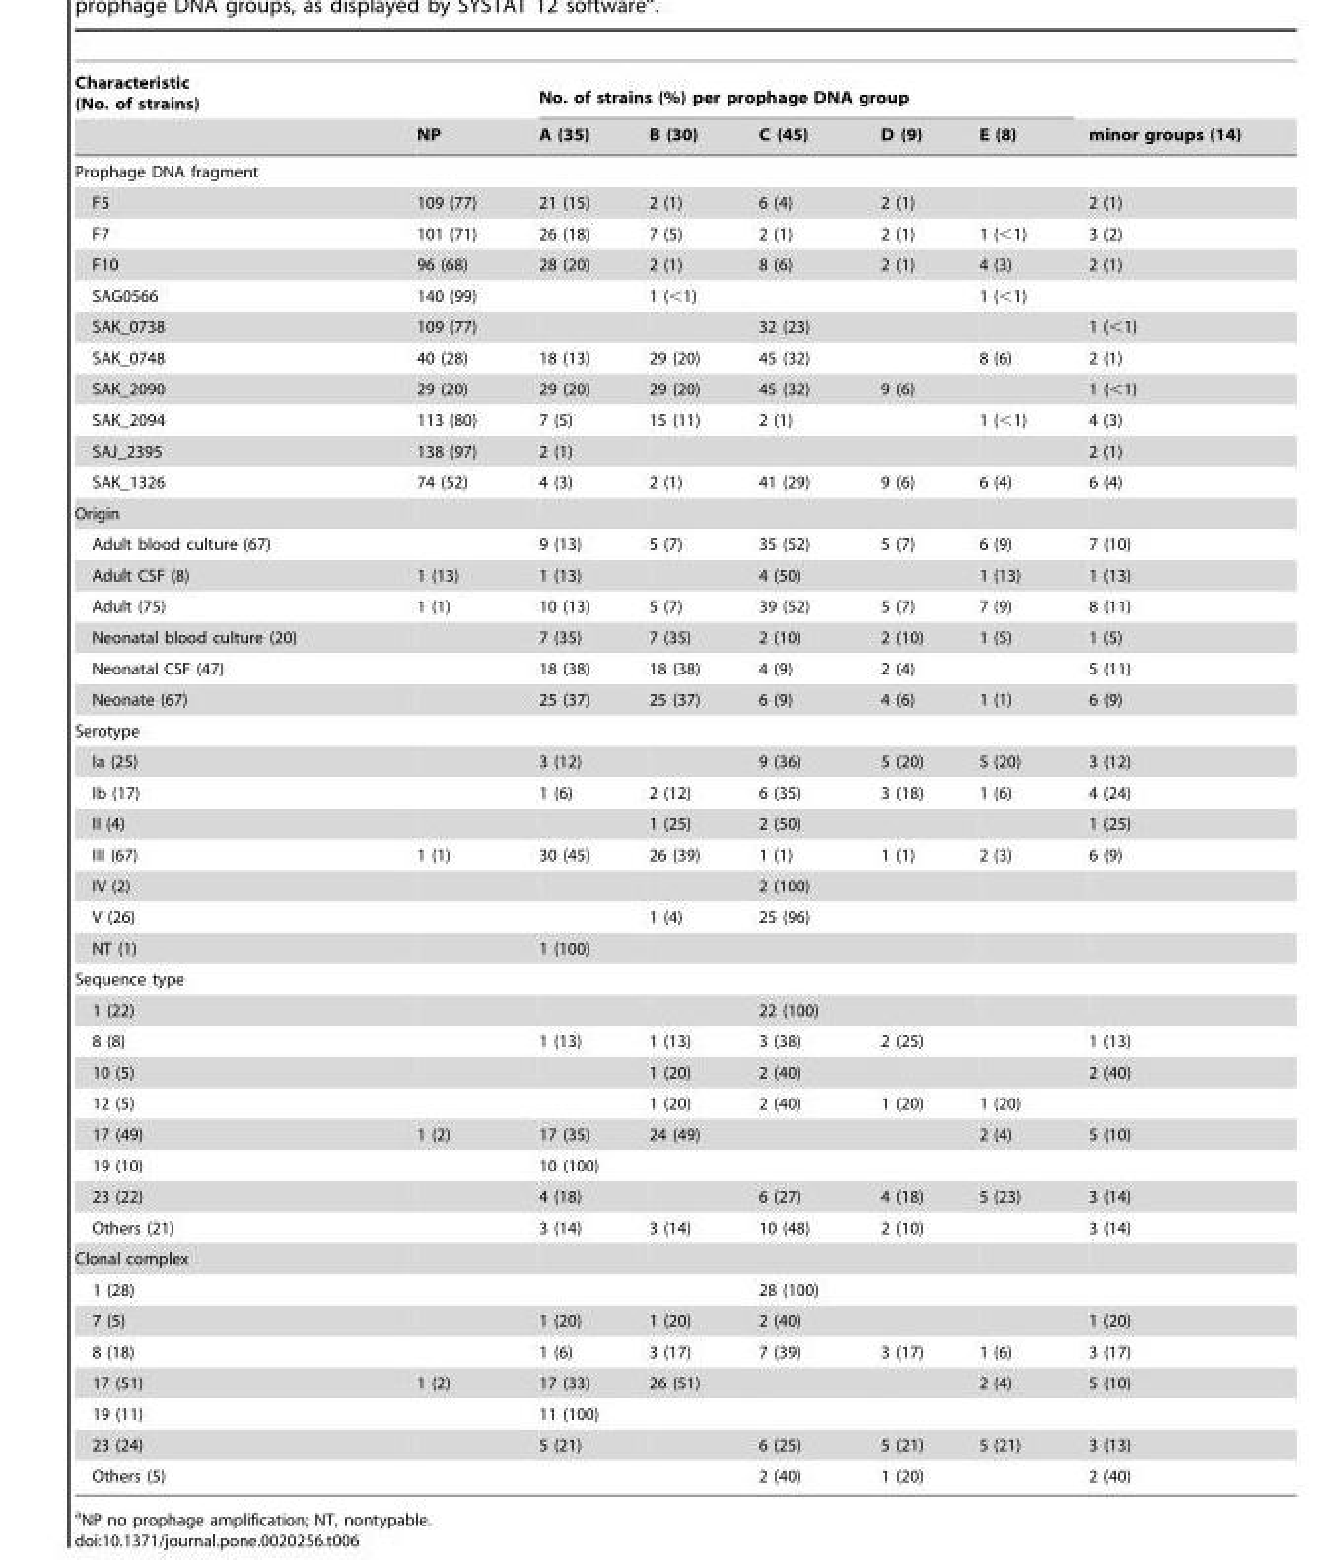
<table><thead><tr><td rowspan="2">Characteristic (No. of strains)</td><td rowspan="2">NP</td><td colspan="5">No. of strains (%) per prophage DNA group</td><td rowspan="2">minor groups (14)</td></tr><tr><td>A (35)</td><td>B (30)</td><td>C (45)</td><td>D (9)</td><td>E (8)</td></tr></thead><tbody><tr><td colspan="8">Prophage DNA fragment</td></tr><tr><td>F5</td><td>109 (77)</td><td>21 (15)</td><td>2 (1)</td><td>6 (4)</td><td>2 (1)</td><td></td><td>2 (1)</td></tr><tr><td>F7</td><td>101 (71)</td><td>26 (18)</td><td>7 (5)</td><td>2 (1)</td><td>2 (1)</td><td>1 (&lt;1)</td><td>3 (2)</td></tr><tr><td>F10</td><td>96 (68)</td><td>28 (20)</td><td>2 (1)</td><td>8 (6)</td><td>2 (1)</td><td>4 (3)</td><td>2 (1)</td></tr><tr><td>SAG0566</td><td>140 (99)</td><td></td><td>1 (&lt;1)</td><td></td><td></td><td>1 (&lt;1)</td><td></td></tr><tr><td>SAK_0738</td><td>109 (77)</td><td></td><td></td><td>32 (23)</td><td></td><td></td><td>1 (&lt;1)</td></tr><tr><td>SAK_0748</td><td>40 (28)</td><td>18 (13)</td><td>29 (20)</td><td>45 (32)</td><td></td><td>8 (6)</td><td>2 (1)</td></tr><tr><td>SAK_2090</td><td>29 (20)</td><td>29 (20)</td><td>29 (20)</td><td>45 (32)</td><td>9 (6)</td><td></td><td>1 (&lt;1)</td></tr><tr><td>SAK_2094</td><td>113 (80)</td><td>7 (5)</td><td>15 (11)</td><td>2 (1)</td><td></td><td>1 (&lt;1)</td><td>4 (3)</td></tr><tr><td>SAJ_2395</td><td>138 (97)</td><td>2 (1)</td><td></td><td></td><td></td><td></td><td>2 (1)</td></tr><tr><td>SAK_1326</td><td>74 (52)</td><td>4 (3)</td><td>2 (1)</td><td>41 (29)</td><td>9 (6)</td><td>6 (4)</td><td>6 (4)</td></tr><tr><td colspan="8">Origin</td></tr><tr><td>Adult blood culture (67)</td><td></td><td>9 (13)</td><td>5 (7)</td><td>35 (52)</td><td>5 (7)</td><td>6 (9)</td><td>7 (10)</td></tr><tr><td>Adult CSF (8)</td><td>1 (13)</td><td>1 (13)</td><td></td><td>4 (50)</td><td></td><td>1 (13)</td><td>1 (13)</td></tr><tr><td>Adult (75)</td><td>1 (1)</td><td>10 (13)</td><td>5 (7)</td><td>39 (52)</td><td>5 (7)</td><td>7 (9)</td><td>8 (11)</td></tr><tr><td>Neonatal blood culture (20)</td><td></td><td>7 (35)</td><td>7 (35)</td><td>2 (10)</td><td>2 (10)</td><td>1 (5)</td><td>1 (5)</td></tr><tr><td>Neonatal CSF (47)</td><td></td><td>18 (38)</td><td>18 (38)</td><td>4 (9)</td><td>2 (4)</td><td></td><td>5 (11)</td></tr><tr><td>Neonate (67)</td><td></td><td>25 (37)</td><td>25 (37)</td><td>6 (9)</td><td>4 (6)</td><td>1 (1)</td><td>6 (9)</td></tr><tr><td colspan="8">Serotype</td></tr><tr><td>Ia (25)</td><td></td><td>3 (12)</td><td></td><td>9 (36)</td><td>5 (20)</td><td>5 (20)</td><td>3 (12)</td></tr><tr><td>Ib (17)</td><td></td><td>1 (6)</td><td>2 (12)</td><td>6 (35)</td><td>3 (18)</td><td>1 (6)</td><td>4 (24)</td></tr><tr><td>II (4)</td><td></td><td></td><td>1 (25)</td><td>2 (50)</td><td></td><td></td><td>1 (25)</td></tr><tr><td>III (67)</td><td>1 (1)</td><td>30 (45)</td><td>26 (39)</td><td>1 (1)</td><td>1 (1)</td><td>2 (3)</td><td>6 (9)</td></tr><tr><td>IV (2)</td><td></td><td></td><td></td><td>2 (100)</td><td></td><td></td><td></td></tr><tr><td>V (26)</td><td></td><td></td><td>1 (4)</td><td>25 (96)</td><td></td><td></td><td></td></tr><tr><td>NT (1)</td><td></td><td>1 (100)</td><td></td><td></td><td></td><td></td><td></td></tr><tr><td colspan="8">Sequence type</td></tr><tr><td>1 (22)</td><td></td><td></td><td></td><td>22 (100)</td><td></td><td></td><td></td></tr><tr><td>8 (8)</td><td></td><td>1 (13)</td><td>1 (13)</td><td>3 (38)</td><td>2 (25)</td><td></td><td>1 (13)</td></tr><tr><td>10 (5)</td><td></td><td></td><td>1 (20)</td><td>2 (40)</td><td></td><td></td><td>2 (40)</td></tr><tr><td>12 (5)</td><td></td><td></td><td>1 (20)</td><td>2 (40)</td><td>1 (20)</td><td>1 (20)</td><td></td></tr><tr><td>17 (49)</td><td>1 (2)</td><td>17 (35)</td><td>24 (49)</td><td></td><td></td><td>2 (4)</td><td>5 (10)</td></tr><tr><td>19 (10)</td><td></td><td>10 (100)</td><td></td><td></td><td></td><td></td><td></td></tr><tr><td>23 (22)</td><td></td><td>4 (18)</td><td></td><td>6 (27)</td><td>4 (18)</td><td>5 (23)</td><td>3 (14)</td></tr><tr><td>Others (21)</td><td></td><td>3 (14)</td><td>3 (14)</td><td>10 (48)</td><td>2 (10)</td><td></td><td>3 (14)</td></tr><tr><td colspan="8">Clonal complex</td></tr><tr><td>1 (28)</td><td></td><td></td><td></td><td>28 (100)</td><td></td><td></td><td></td></tr><tr><td>7 (5)</td><td></td><td>1 (20)</td><td>1 (20)</td><td>2 (40)</td><td></td><td></td><td>1 (20)</td></tr><tr><td>8 (18)</td><td></td><td>1 (6)</td><td>3 (17)</td><td>7 (39)</td><td>3 (17)</td><td>1 (6)</td><td>3 (17)</td></tr><tr><td>17 (51)</td><td>1 (2)</td><td>17 (33)</td><td>26 (51)</td><td></td><td></td><td>2 (4)</td><td>5 (10)</td></tr><tr><td>19 (11)</td><td></td><td>11 (100)</td><td></td><td></td><td></td><td></td><td></td></tr><tr><td>23 (24)</td><td></td><td>5 (21)</td><td></td><td>6 (25)</td><td>5 (21)</td><td>5 (21)</td><td>3 (13)</td></tr><tr><td>Others (5)</td><td></td><td></td><td></td><td>2 (40)</td><td>1 (20)</td><td></td><td>2 (40)</td></tr></tbody></table>